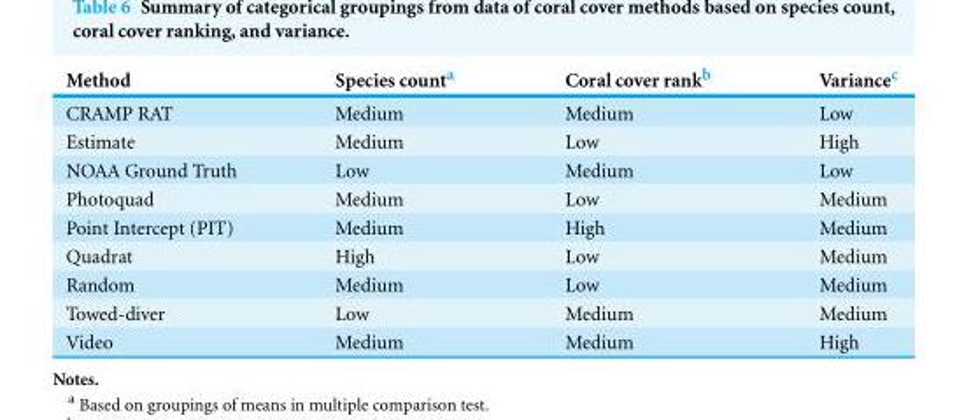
<table><thead><tr><td>Method</td><td>Species count<sup>a</sup></td><td>Coral cover rank<sup>b</sup></td><td>Variance<sup>c</sup></td></tr></thead><tbody><tr><td>CRAMP RAT</td><td>Medium</td><td>Medium</td><td>Low</td></tr><tr><td>Estimate</td><td>Medium</td><td>Low</td><td>High</td></tr><tr><td>NOAA Ground Truth</td><td>Low</td><td>Medium</td><td>Low</td></tr><tr><td>Photoquad</td><td>Medium</td><td>Low</td><td>Medium</td></tr><tr><td>Point Intercept (PIT)</td><td>Medium</td><td>High</td><td>Medium</td></tr><tr><td>Quadrat</td><td>High</td><td>Low</td><td>Medium</td></tr><tr><td>Random</td><td>Medium</td><td>Low</td><td>Medium</td></tr><tr><td>Towed-diver</td><td>Low</td><td>Medium</td><td>Medium</td></tr><tr><td>Video</td><td>Medium</td><td>Medium</td><td>High</td></tr></tbody></table>